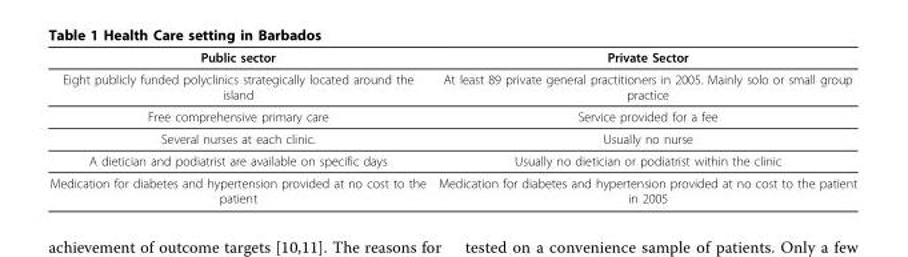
<table><thead><tr><td>Public sector</td><td>Private Sector</td></tr></thead><tbody><tr><td>Eight publicly funded polyclinics strategically located around the island</td><td>At least 89 private general practitioners in 2005. Mainly solo or small group practice</td></tr><tr><td>Free comprehensive primary care</td><td>Service provided for a fee</td></tr><tr><td>Several nurses at each clinic.</td><td>Usually no nurse</td></tr><tr><td>A dietician and podiatrist are available on specific days</td><td>Usually no dietician or podiatrist within the clinic</td></tr><tr><td>Medication for diabetes and hypertension provided at no cost to the patient</td><td>Medication for diabetes and hypertension provided at no cost to the patient in 2005</td></tr></tbody></table>